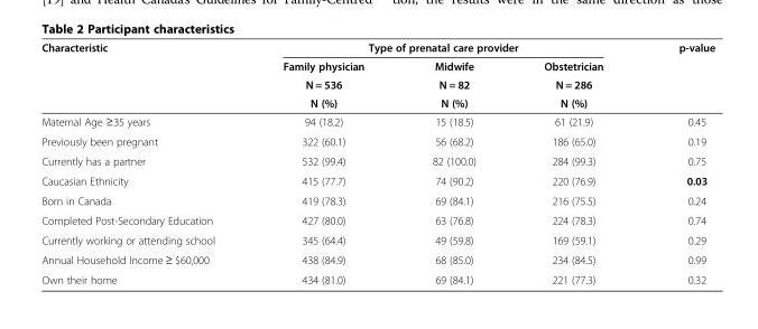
<table><thead><tr><td rowspan="4">Characteristic</td><td colspan="3">Type of prenatal care provider</td><td rowspan="4">p-value</td></tr><tr><td rowspan="3">Family physician N = 536 N (%)</td><td rowspan="3">Midwife N = 82 N (%)</td><td rowspan="3">Obstetrician N = 286 N (%)</td></tr><tr></tr><tr></tr></thead><tbody><tr><td>Maternal Age ≥35 years</td><td>94 (18.2)</td><td>15 (18.5)</td><td>61 (21.9)</td><td>0.45</td></tr><tr><td>Previously been pregnant</td><td>322 (60.1)</td><td>56 (68.2)</td><td>186 (65.0)</td><td>0.19</td></tr><tr><td>Currently has a partner</td><td>532 (99.4)</td><td>82 (100.0)</td><td>284 (99.3)</td><td>0.75</td></tr><tr><td>Caucasian Ethnicity</td><td>415 (77.7)</td><td>74 (90.2)</td><td>220 (76.9)</td><td>0.03</td></tr><tr><td>Born in Canada</td><td>419 (78.3)</td><td>69 (84.1)</td><td>216 (75.5)</td><td>0.24</td></tr><tr><td>Completed Post-Secondary Education</td><td>427 (80.0)</td><td>63 (76.8)</td><td>224 (78.3)</td><td>0.74</td></tr><tr><td>Currently working or attending school</td><td>345 (64.4)</td><td>49 (59.8)</td><td>169 (59.1)</td><td>0.29</td></tr><tr><td>Annual Household Income ≥ $60,000</td><td>438 (84.9)</td><td>68 (85.0)</td><td>234 (84.5)</td><td>0.99</td></tr><tr><td>Own their home</td><td>434 (81.0)</td><td>69 (84.1)</td><td>221 (77.3)</td><td>0.32</td></tr></tbody></table>